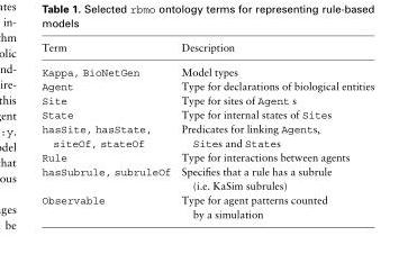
<table><thead><tr><td>Term</td><td>Description</td></tr></thead><tbody><tr><td>Kappa, BioNetGen</td><td>Model types</td></tr><tr><td>Agent</td><td>Type for declarations of biological entities</td></tr><tr><td>Site</td><td>Type for sites of Agent s</td></tr><tr><td>State</td><td>Type for internal states of Sites</td></tr><tr><td>hasSite, hasState, siteOf, stateOf</td><td>Predicates for linking Agents, Sites and States</td></tr><tr><td>Rule</td><td>Type for interactions between agents</td></tr><tr><td>hasSubrule, subruleOf</td><td>Specifies that a rule has a subrule (i.e. KaSim subrules)</td></tr><tr><td>Observable</td><td>Type for agent patterns counted by a simulation</td></tr></tbody></table>